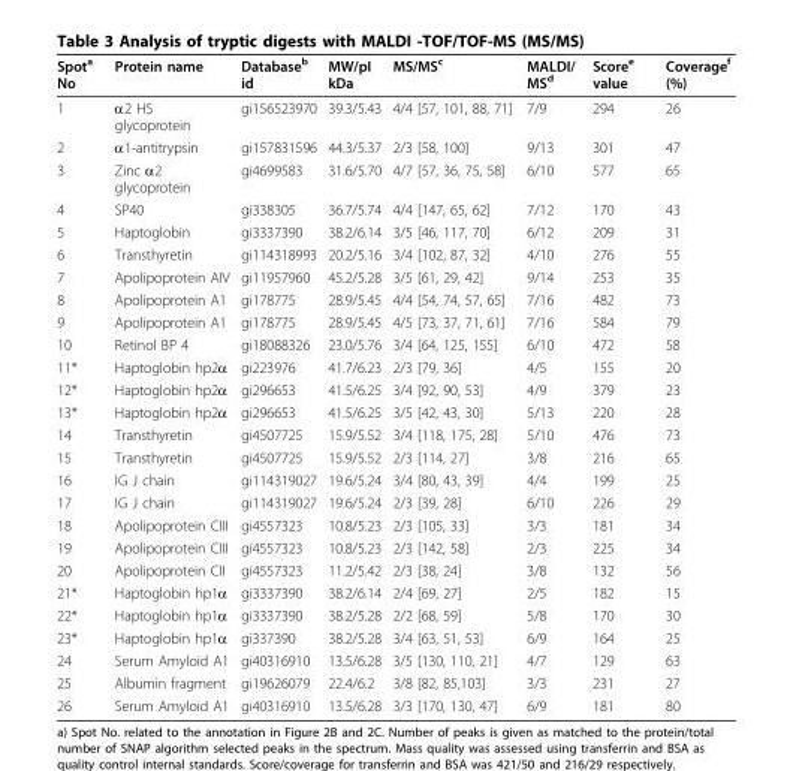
<table><thead><tr><td>Spot<sup>a</sup> No</td><td>Protein name</td><td>Database<sup>b</sup> id</td><td>MW/pI kDa</td><td>MS/MS<sup>c</sup></td><td>MALDI/ MS<sup>d</sup></td><td>Score<sup>e</sup> value</td><td>Coverage<sup>f</sup> (%)</td></tr></thead><tbody><tr><td>1</td><td>α2 HS glycoprotein</td><td>gi156523970</td><td>39.3/5.43</td><td>4/4 [57, 101, 88, 71]</td><td>7/9</td><td>294</td><td>26</td></tr><tr><td>2</td><td>α1-antitrypsin</td><td>gi157831596</td><td>44.3/5.37</td><td>2/3 [58, 100]</td><td>9/13</td><td>301</td><td>47</td></tr><tr><td>3</td><td>Zinc α2 glycoprotein</td><td>gi4699583</td><td>31.6/5.70</td><td>4/7 [57, 36, 75, 58]</td><td>6/10</td><td>577</td><td>65</td></tr><tr><td>4</td><td>SP40</td><td>gi338305</td><td>36.7/5.74</td><td>4/4 [147, 65, 62]</td><td>7/12</td><td>170</td><td>43</td></tr><tr><td>5</td><td>Haptoglobin</td><td>gi3337390</td><td>38.2/6.14</td><td>3/5 [46, 117, 70]</td><td>6/12</td><td>209</td><td>31</td></tr><tr><td>6</td><td>Transthyretin</td><td>gi114318993</td><td>20.2/5.16</td><td>3/4 [102, 87, 32]</td><td>4/10</td><td>276</td><td>55</td></tr><tr><td>7</td><td>Apolipoprotein AIV</td><td>gi11957960</td><td>45.2/5.28</td><td>3/5 [61, 29, 42]</td><td>9/14</td><td>253</td><td>35</td></tr><tr><td>8</td><td>Apolipoprotein A1</td><td>gi178775</td><td>28.9/5.45</td><td>4/4 [54, 74, 57, 65]</td><td>7/16</td><td>482</td><td>73</td></tr><tr><td>9</td><td>Apolipoprotein A1</td><td>gi178775</td><td>28.9/5.45</td><td>4/5 [73, 37, 71, 61]</td><td>7/16</td><td>584</td><td>79</td></tr><tr><td>10</td><td>Retinol BP 4</td><td>gi18088326</td><td>23.0/5.76</td><td>3/4 [64, 125, 155]</td><td>6/10</td><td>472</td><td>58</td></tr><tr><td>11*</td><td>Haptoglobin hp2α</td><td>gi223976</td><td>41.7/6.23</td><td>2/3 [79, 36]</td><td>4/5</td><td>155</td><td>20</td></tr><tr><td>12*</td><td>Haptoglobin hp2α</td><td>gi296653</td><td>41.5/6.25</td><td>3/4 [92, 90, 53]</td><td>4/9</td><td>379</td><td>23</td></tr><tr><td>13*</td><td>Haptoglobin hp2α</td><td>gi296653</td><td>41.5/6.25</td><td>3/5 [42, 43, 30]</td><td>5/13</td><td>220</td><td>28</td></tr><tr><td>14</td><td>Transthyretin</td><td>gi4507725</td><td>15.9/5.52</td><td>3/4 [118, 175, 28]</td><td>5/10</td><td>476</td><td>73</td></tr><tr><td>15</td><td>Transthyretin</td><td>gi4507725</td><td>15.9/5.52</td><td>2/3 [114, 27]</td><td>3/8</td><td>216</td><td>65</td></tr><tr><td>16</td><td>IG J chain</td><td>gi114319027</td><td>19.6/5.24</td><td>3/4 [80, 43, 39]</td><td>4/4</td><td>199</td><td>25</td></tr><tr><td>17</td><td>IG J chain</td><td>gi114319027</td><td>19.6/5.24</td><td>2/3 [39, 28]</td><td>6/10</td><td>226</td><td>29</td></tr><tr><td>18</td><td>Apolipoprotein CIII</td><td>gi4557323</td><td>10.8/5.23</td><td>2/3 [105, 33]</td><td>3/3</td><td>181</td><td>34</td></tr><tr><td>19</td><td>Apolipoprotein CIII</td><td>gi4557323</td><td>10.8/5.23</td><td>2/3 [142, 58]</td><td>2/3</td><td>225</td><td>34</td></tr><tr><td>20</td><td>Apolipoprotein CII</td><td>gi4557323</td><td>11.2/5.42</td><td>2/3 [38, 24]</td><td>3/8</td><td>132</td><td>56</td></tr><tr><td>21*</td><td>Haptoglobin hp1α</td><td>gi3337390</td><td>38.2/6.14</td><td>2/4 [69, 27]</td><td>2/5</td><td>182</td><td>15</td></tr><tr><td>22*</td><td>Haptoglobin hp1α</td><td>gi3337390</td><td>38.2/5.28</td><td>2/2 [68, 59]</td><td>5/8</td><td>170</td><td>30</td></tr><tr><td>23*</td><td>Haptoglobin hp1α</td><td>gi337390</td><td>38.2/5.28</td><td>3/4 [63, 51, 53]</td><td>6/9</td><td>164</td><td>25</td></tr><tr><td>24</td><td>Serum Amyloid A1</td><td>gi40316910</td><td>13.5/6.28</td><td>3/5 [130, 110, 21]</td><td>4/7</td><td>129</td><td>63</td></tr><tr><td>25</td><td>Albumin fragment</td><td>gi19626079</td><td>22.4/6.2</td><td>3/8 [82, 85,103]</td><td>3/3</td><td>231</td><td>27</td></tr><tr><td>26</td><td>Serum Amyloid A1</td><td>gi40316910</td><td>13.5/6.28</td><td>3/3 [170, 130, 47]</td><td>6/9</td><td>181</td><td>80</td></tr></tbody></table>